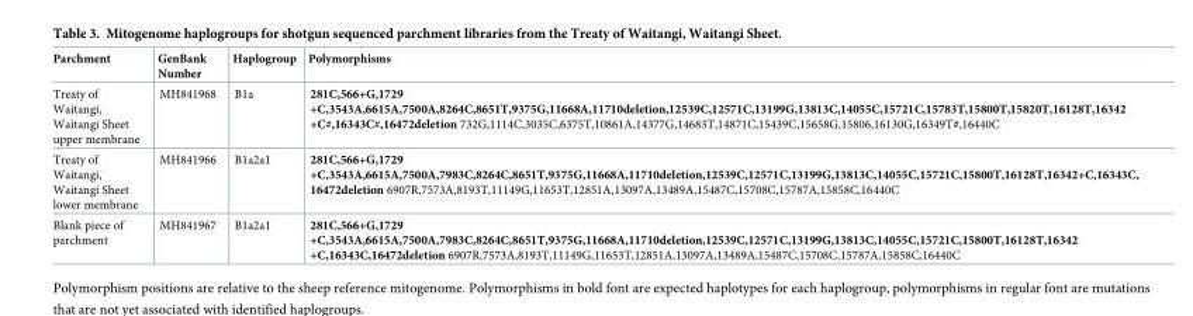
<table><thead><tr><td>Parchment</td><td>GenBank Number</td><td>Haplogroup</td><td>Polymorphisms</td></tr></thead><tbody><tr><td>Treaty of Waitangi, Waitangi Sheet upper membrane</td><td>MH841968</td><td>B1a</td><td>281C,566+G,1729 +C,3543A,6615A,7500A,8264C,8651T,9375G,11668A,11710deletion,12539C,12571C,13199G,13813C,14055C,15721C,15783T,15800T,15820T,16128T,16342 +C#,16343C#,16472deletion 732G,1114C,3035C,6375T,10861A,14377G,14683T,14871C,15439C,15658G,15806,16130G,16349T#,16440C</td></tr><tr><td>Treaty of Waitangi, Waitangi Sheet lower membrane</td><td>MH841966</td><td>B1a2a1</td><td>281C,566+G,1729 +C,3543A,6615A,7500A,7983C,8264C,8651T,9375G,11668A,11710deletion,12539C,12571C,13199G,13813C,14055C,15721C,15800T,16128T,16342+C,16343C, 16472deletion 6907R,7573A,8193T,11149G,11653T,12851A,13097A,13489A,15487C,15708C,15787A,15858C,16440C</td></tr><tr><td>Blank piece of parchment</td><td>MH841967</td><td>B1a2a1</td><td>281C,566+G,1729 +C,3543A,6615A,7500A,7983C,8264C,8651T,9375G,11668A,11710deletion,12539C,12571C,13199G,13813C,14055C,15721C,15800T,16128T,16342 +C,16343C,16472deletion 6907R,7573A,8193T,11149G,11653T,12851A,13097A,13489A,15487C,15708C,15787A,15858C,16440C</td></tr></tbody></table>